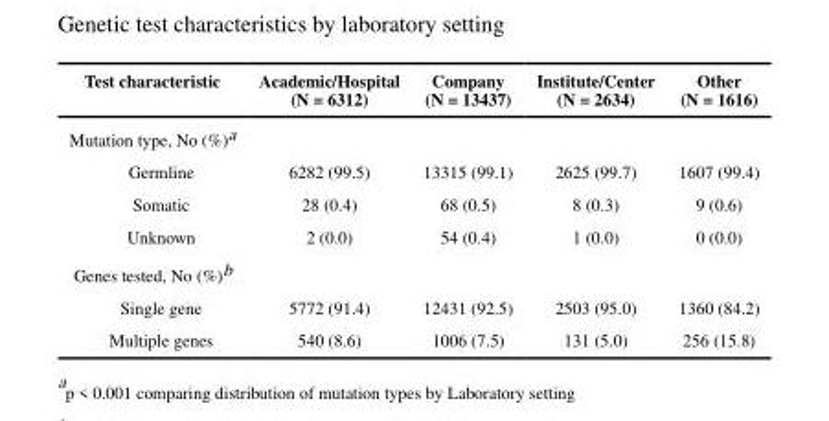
<table><thead><tr><td>Test characteristic</td><td>Academic/Hospital (N = 6312)</td><td>Company (N = 13437)</td><td>Institute/Center (N = 2634)</td><td>Other (N = 1616)</td></tr></thead><tbody><tr><td colspan="5">Mutation type, No (%)<sup>a</sup></td></tr><tr><td>Germline</td><td>6282 (99.5)</td><td>13315 (99.1)</td><td>2625 (99.7)</td><td>1607 (99.4)</td></tr><tr><td>Somatic</td><td>28 (0.4)</td><td>68 (0.5)</td><td>8 (0.3)</td><td>9 (0.6)</td></tr><tr><td>Unknown</td><td>2 (0.0)</td><td>54 (0.4)</td><td>1 (0.0)</td><td>0 (0.0)</td></tr><tr><td colspan="5">Genes tested, No (%)<sup>b</sup></td></tr><tr><td>Single gene</td><td>5772 (91.4)</td><td>12431 (92.5)</td><td>2503 (95.0)</td><td>1360 (84.2)</td></tr><tr><td>Multiple genes</td><td>540 (8.6)</td><td>1006 (7.5)</td><td>131 (5.0)</td><td>256 (15.8)</td></tr></tbody></table>